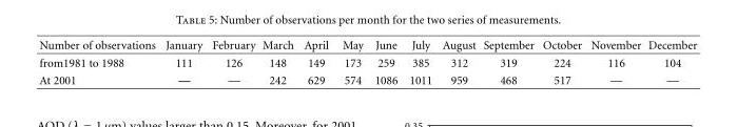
<table><thead><tr><td>Number of observations</td><td>January</td><td>February</td><td>March</td><td>April</td><td>May</td><td>June</td><td>July</td><td>August</td><td>September</td><td>October</td><td>November</td><td>December</td></tr></thead><tbody><tr><td>from1981 to 1988</td><td>111</td><td>126</td><td>148</td><td>149</td><td>173</td><td>259</td><td>385</td><td>312</td><td>319</td><td>224</td><td>116</td><td>104</td></tr><tr><td>At 2001</td><td>—</td><td>—</td><td>242</td><td>629</td><td>574</td><td>1086</td><td>1011</td><td>959</td><td>468</td><td>517</td><td>—</td><td>—</td></tr></tbody></table>